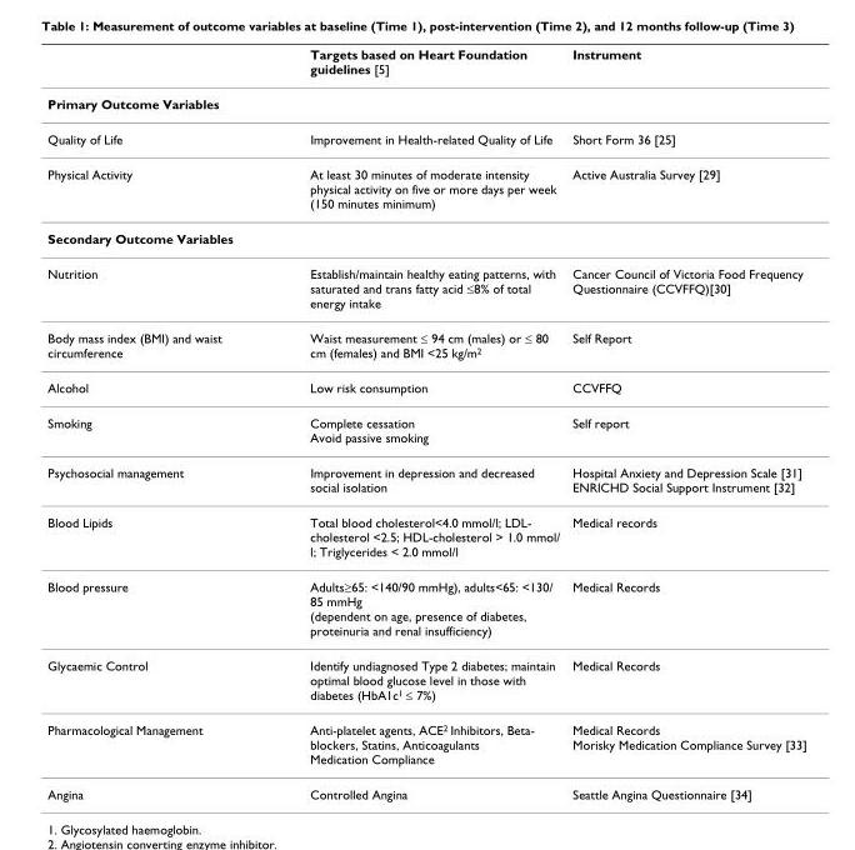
<table><thead><tr><td></td><td>Targets based on Heart Foundation guidelines [5]</td><td>Instrument</td></tr></thead><tbody><tr><td colspan="3">Primary Outcome Variables</td></tr><tr><td>Quality of Life</td><td>Improvement in Health-related Quality of Life</td><td>Short Form 36 [25]</td></tr><tr><td>Physical Activity</td><td>At least 30 minutes of moderate intensity physical activity on five or more days per week (150 minutes minimum)</td><td>Active Australia Survey [29]</td></tr><tr><td colspan="3">Secondary Outcome Variables</td></tr><tr><td>Nutrition</td><td>Establish/maintain healthy eating patterns, with saturated and trans fatty acid ≤8% of total energy intake</td><td>Cancer Council of Victoria Food Frequency Questionnaire (CCVFFQ)[30]</td></tr><tr><td>Body mass index (BMI) and waist circumference</td><td>Waist measurement ≤ 94 cm (males) or ≤ 80 cm (females) and BMI &lt;25 kg/m<sup>2</sup></td><td>Self Report</td></tr><tr><td>Alcohol</td><td>Low risk consumption</td><td>CCVFFQ</td></tr><tr><td>Smoking</td><td>Complete cessation Avoid passive smoking</td><td>Self report</td></tr><tr><td>Psychosocial management</td><td>Improvement in depression and decreased social isolation</td><td>Hospital Anxiety and Depression Scale [31] ENRICHD Social Support Instrument [32]</td></tr><tr><td>Blood Lipids</td><td>Total blood cholesterol&lt;4.0 mmol/l; LDL- cholesterol &lt;2.5; HDL-cholesterol &gt; 1.0 mmol/ l; Triglycerides &lt; 2.0 mmol/l</td><td>Medical records</td></tr><tr><td>Blood pressure</td><td>Adults≥65: &lt;140/90 mmHg), adults&lt;65: &lt;130/ 85 mmHg (dependent on age, presence of diabetes, proteinuria and renal insufficiency)</td><td>Medical Records</td></tr><tr><td>Glycaemic Control</td><td>Identify undiagnosed Type 2 diabetes; maintain optimal blood glucose level in those with diabetes (HbA1c<sup>1</sup> ≤ 7%)</td><td>Medical Records</td></tr><tr><td>Pharmacological Management</td><td>Anti-platelet agents, ACE<sup>2</sup> Inhibitors, Beta- blockers, Statins, Anticoagulants Medication Compliance</td><td>Medical Records Morisky Medication Compliance Survey [33]</td></tr><tr><td>Angina</td><td>Controlled Angina</td><td>Seattle Angina Questionnaire [34]</td></tr></tbody></table>